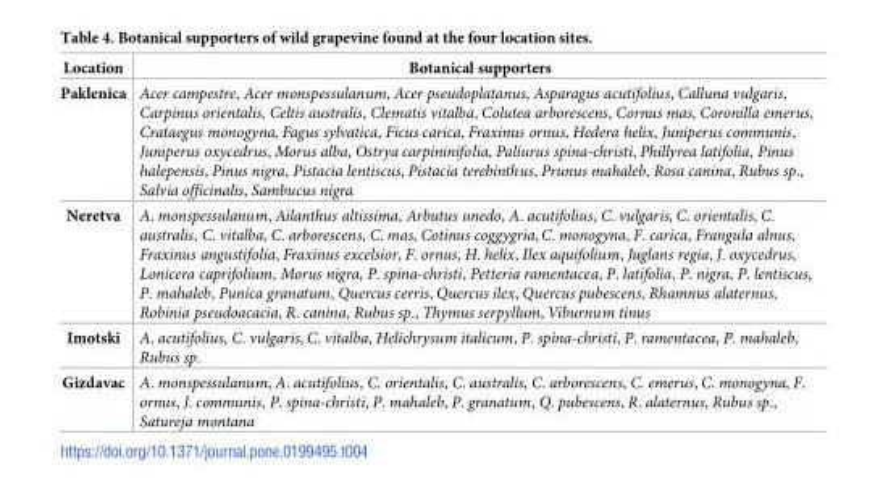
<table><thead><tr><td>Location</td><td>Botanical supporters</td></tr></thead><tbody><tr><td>Paklenica</td><td>Acer campestre, Acer monspessulanum, Acer pseudoplatanus, Asparagus acutifolius, Calluna vulgaris, Carpinus orientalis, Celtis australis, Clematis vitalba, Colutea arborescens, Cornus mas, Coronilla emerus, Crataegus monogyna, Fagus sylvatica, Ficus carica, Fraxinus ornus, Hedera helix, Juniperus communis, Juniperus oxycedrus, Morus alba, Ostrya carpininifolia, Paliurus spina-christi, Phillyrea latifolia, Pinus halepensis, Pinus nigra, Pistacia lentiscus, Pistacia terebinthus, Prunus mahaleb, Rosa canina, Rubus sp., Salvia officinalis, Sambucus nigra</td></tr><tr><td>Neretva</td><td>A. monspessulanum, Ailanthus altissima, Arbutus unedo, A. acutifolius, C. vulgaris, C. orientalis, C. australis, C. vitalba, C. arborescens, C. mas, Cotinus coggygria,C. monogyna, F. carica, Frangula alnus, Fraxinus angustifolia, Fraxinus excelsior, F. ornus, H. helix, Ilex aquifolium, Juglans regia, J. oxycedrus, Lonicera caprifolium, Morus nigra, P. spina-christi, Petteria ramentacea, P. latifolia, P. nigra, P. lentiscus, P. mahaleb, Punica granatum, Quercus cerris, Quercus ilex, Quercus pubescens, Rhamnus alaternus, Robinia pseudoacacia, R. canina, Rubus sp., Thymus serpyllum, Viburnum tinus</td></tr><tr><td>Imotski</td><td>A. acutifolius, C. vulgaris, C. vitalba, Helichrysum italicum, P. spina-christi, P. ramentacea, P. mahaleb, Rubus sp.</td></tr><tr><td>Gizdavac</td><td>A. monspessulanum, A. acutifolius, C. orientalis, C. australis, C. arborescens, C. emerus, C. monogyna, F. ornus, J. communis, P. spina-christi, P. mahaleb, P. granatum, Q. pubescens, R. alaternus, Rubus sp., Satureja montana</td></tr></tbody></table>